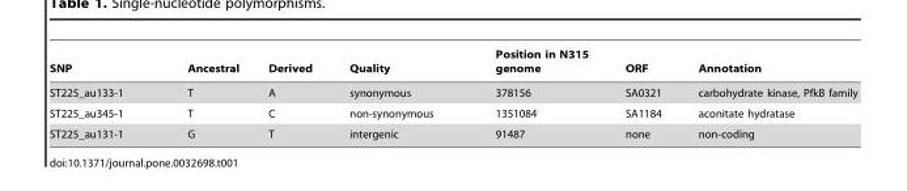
<table><thead><tr><td>SNP</td><td>Ancestral</td><td>Derived</td><td>Quality</td><td>Position in N315 genome</td><td>ORF</td><td>Annotation</td></tr></thead><tbody><tr><td>ST225_au133-1</td><td>T</td><td>A</td><td>synonymous</td><td>378156</td><td>SA0321</td><td>carbohydrate kinase, PfkB family</td></tr><tr><td>ST225_au345-1</td><td>T</td><td>C</td><td>non-synonymous</td><td>1351084</td><td>SA1184</td><td>aconitate hydratase</td></tr><tr><td>ST225_au131-1</td><td>G</td><td>T</td><td>intergenic</td><td>91487</td><td>none</td><td>non-coding</td></tr></tbody></table>